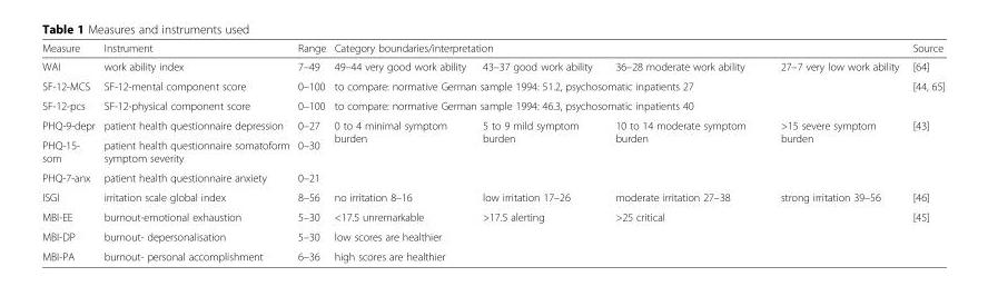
<table><thead><tr><td rowspan="2">Measure WAI</td><td rowspan="2">Instrument work ability index</td><td rowspan="2">Range 7–49</td><td colspan="4">Category boundaries/interpretation</td><td rowspan="2">Source [64]</td></tr><tr><td>49–44 very good work ability</td><td>43–37 good work ability</td><td>36–28 moderate work ability</td><td>27–7 very low work ability</td></tr></thead><tbody><tr><td>SF-12-MCS</td><td>SF-12-mental component score</td><td>0–100</td><td colspan="4">to compare: normative German sample 1994: 51.2, psychosomatic inpatients 27</td><td rowspan="2">[44, 65]</td></tr><tr><td>SF-12-pcs</td><td>SF-12-physical component score</td><td>0–100</td><td colspan="4">to compare: normative German sample 1994: 46.3, psychosomatic inpatients 40</td></tr><tr><td>PHQ-9-depr</td><td>patient health questionnaire depression</td><td>0–27</td><td rowspan="3">0 to 4 minimal symptom burden</td><td rowspan="3">5 to 9 mild symptom burden</td><td rowspan="3">10 to 14 moderate symptom burden</td><td rowspan="3">&gt;15 severe symptom burden</td><td rowspan="3">[43]</td></tr><tr><td>PHQ-15- som</td><td>patient health questionnaire somatoform symptom severity</td><td>0–30</td></tr><tr><td>PHQ-7-anx</td><td>patient health questionnaire anxiety</td><td>0–21</td></tr><tr><td>ISGI</td><td>irritation scale global index</td><td>8–56</td><td>no irritation 8–16</td><td>low irritation 17–26</td><td>moderate irritation 27–38</td><td>strong irritation 39–56</td><td>[46]</td></tr><tr><td>MBI-EE</td><td>burnout-emotional exhaustion</td><td>5–30</td><td>&lt;17.5 unremarkable</td><td>&gt;17.5 alerting</td><td>&gt;25 critical</td><td></td><td rowspan="3">[45]</td></tr><tr><td>MBI-DP</td><td>burnout- depersonalisation</td><td>5–30</td><td colspan="3">low scores are healthier</td><td></td></tr><tr><td>MBI-PA</td><td>burnout- personal accomplishment</td><td>6–36</td><td colspan="3">high scores are healthier</td><td></td></tr></tbody></table>